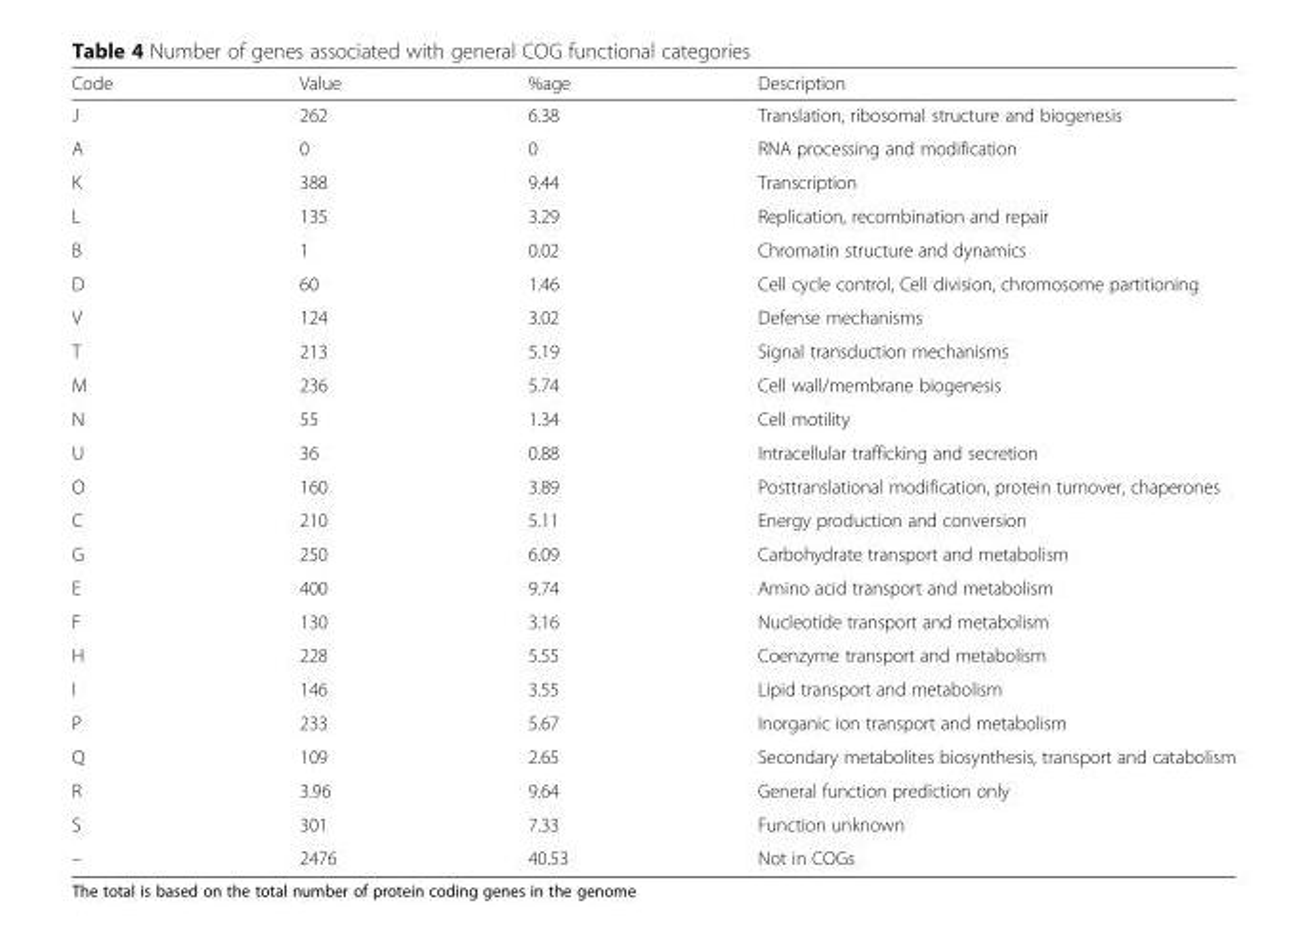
<table><thead><tr><td>Code</td><td>Value</td><td>%age</td><td>Description</td></tr></thead><tbody><tr><td>J</td><td>262</td><td>6.38</td><td>Translation, ribosomal structure and biogenesis</td></tr><tr><td>A</td><td>0</td><td>0</td><td>RNA processing and modification</td></tr><tr><td>K</td><td>388</td><td>9.44</td><td>Transcription</td></tr><tr><td>L</td><td>135</td><td>3.29</td><td>Replication, recombination and repair</td></tr><tr><td>B</td><td>1</td><td>0.02</td><td>Chromatin structure and dynamics</td></tr><tr><td>D</td><td>60</td><td>1.46</td><td>Cell cycle control, Cell division, chromosome partitioning</td></tr><tr><td>V</td><td>124</td><td>3.02</td><td>Defense mechanisms</td></tr><tr><td>T</td><td>213</td><td>5.19</td><td>Signal transduction mechanisms</td></tr><tr><td>M</td><td>236</td><td>5.74</td><td>Cell wall/membrane biogenesis</td></tr><tr><td>N</td><td>55</td><td>1.34</td><td>Cell motility</td></tr><tr><td>U</td><td>36</td><td>0.88</td><td>Intracellular trafficking and secretion</td></tr><tr><td>O</td><td>160</td><td>3.89</td><td>Posttranslational modification, protein turnover, chaperones</td></tr><tr><td>C</td><td>210</td><td>5.11</td><td>Energy production and conversion</td></tr><tr><td>G</td><td>250</td><td>6.09</td><td>Carbohydrate transport and metabolism</td></tr><tr><td>E</td><td>400</td><td>9.74</td><td>Amino acid transport and metabolism</td></tr><tr><td>F</td><td>130</td><td>3.16</td><td>Nucleotide transport and metabolism</td></tr><tr><td>H</td><td>228</td><td>5.55</td><td>Coenzyme transport and metabolism</td></tr><tr><td>I</td><td>146</td><td>3.55</td><td>Lipid transport and metabolism</td></tr><tr><td>P</td><td>233</td><td>5.67</td><td>Inorganic ion transport and metabolism</td></tr><tr><td>Q</td><td>109</td><td>2.65</td><td>Secondary metabolites biosynthesis, transport and catabolism</td></tr><tr><td>R</td><td>3.96</td><td>9.64</td><td>General function prediction only</td></tr><tr><td>S</td><td>301</td><td>7.33</td><td>Function unknown</td></tr><tr><td>–</td><td>2476</td><td>40.53</td><td>Not in COGs</td></tr></tbody></table>